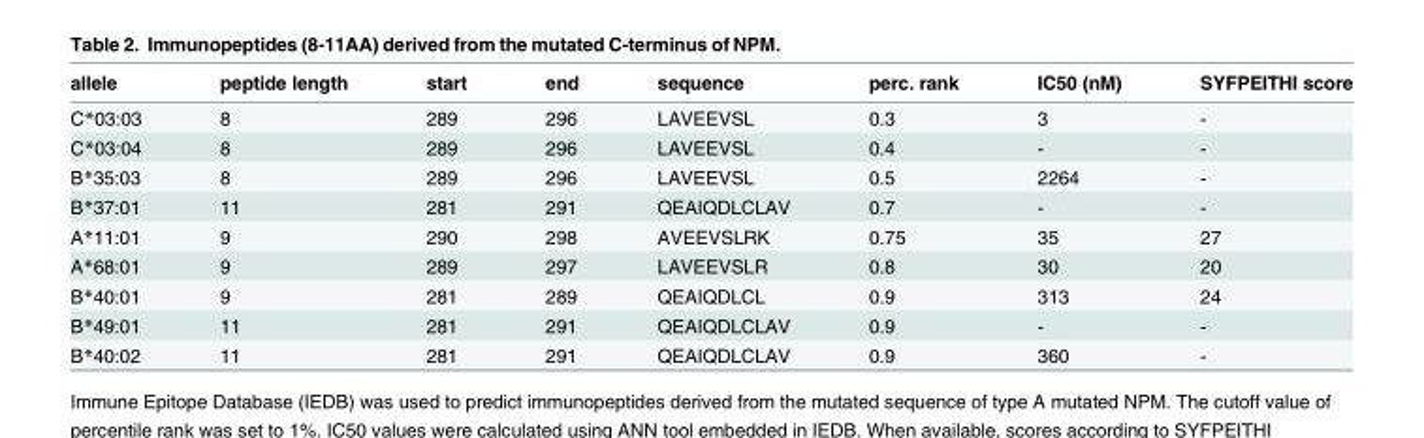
<table><thead><tr><td>allele</td><td>peptide length</td><td>start</td><td>end</td><td>sequence</td><td>perc. rank</td><td>IC50 (nM)</td><td>SYFPEITHI score</td></tr></thead><tbody><tr><td>C*03:03</td><td>8</td><td>289</td><td>296</td><td>LAVEEVSL</td><td>0.3</td><td>3</td><td>-</td></tr><tr><td>C*03:04</td><td>8</td><td>289</td><td>296</td><td>LAVEEVSL</td><td>0.4</td><td>-</td><td>-</td></tr><tr><td>B*35:03</td><td>8</td><td>289</td><td>296</td><td>LAVEEVSL</td><td>0.5</td><td>2264</td><td>-</td></tr><tr><td>B*37:01</td><td>11</td><td>281</td><td>291</td><td>QEAIQDLCLAV</td><td>0.7</td><td>-</td><td>-</td></tr><tr><td>A*11:01</td><td>9</td><td>290</td><td>298</td><td>AVEEVSLRK</td><td>0.75</td><td>35</td><td>27</td></tr><tr><td>A*68:01</td><td>9</td><td>289</td><td>297</td><td>LAVEEVSLR</td><td>0.8</td><td>30</td><td>20</td></tr><tr><td>B*40:01</td><td>9</td><td>281</td><td>289</td><td>QEAIQDLCL</td><td>0.9</td><td>313</td><td>24</td></tr><tr><td>B*49:01</td><td>11</td><td>281</td><td>291</td><td>QEAIQDLCLAV</td><td>0.9</td><td>-</td><td>-</td></tr><tr><td>B*40:02</td><td>11</td><td>281</td><td>291</td><td>QEAIQDLCLAV</td><td>0.9</td><td>360</td><td>-</td></tr></tbody></table>